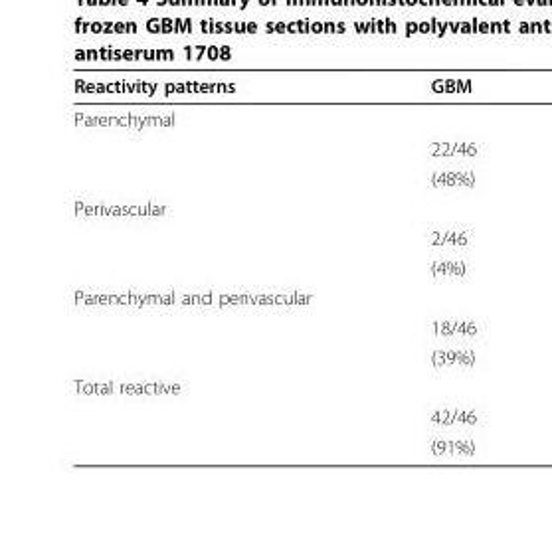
<table><thead><tr><td>Reactivity patterns</td><td>GBM</td></tr></thead><tbody><tr><td colspan="2">Parenchymal</td></tr><tr><td></td><td>22/46</td></tr><tr><td></td><td>(48%)</td></tr><tr><td colspan="2">Perivascular</td></tr><tr><td></td><td>2/46</td></tr><tr><td></td><td>(4%)</td></tr><tr><td colspan="2">Parenchymal and perivascular</td></tr><tr><td></td><td>18/46</td></tr><tr><td></td><td>(39%)</td></tr><tr><td colspan="2">Total reactive</td></tr><tr><td></td><td>42/46</td></tr><tr><td></td><td>(91%)</td></tr></tbody></table>